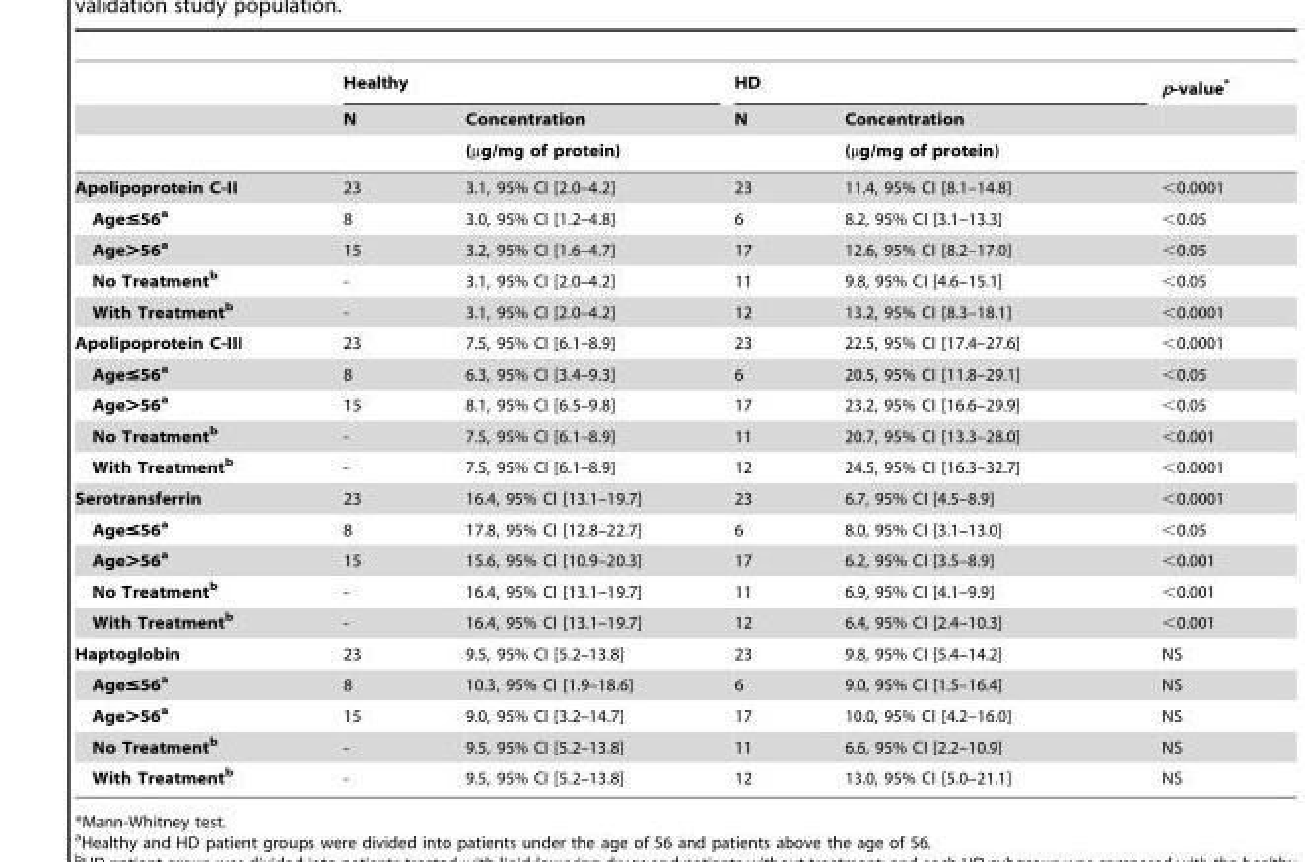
<table><thead><tr><td rowspan="3"></td><td colspan="2">Healthy</td><td colspan="2">HD</td><td rowspan="3">p-value*</td></tr><tr><td rowspan="2">N</td><td rowspan="2">Concentration (µg/mg of protein)</td><td rowspan="2">N</td><td rowspan="2">Concentration (µg/mg of protein)</td></tr><tr></tr></thead><tbody><tr><td>Apolipoprotein C-II</td><td>23</td><td>3.1, 95% CI [2.0–4.2]</td><td>23</td><td>11.4, 95% CI [8.1–14.8]</td><td>&lt;0.0001</td></tr><tr><td>Age≤56a</td><td>8</td><td>3.0, 95% CI [1.2–4.8]</td><td>6</td><td>8.2, 95% CI [3.1–13.3]</td><td>&lt;0.05</td></tr><tr><td>Age&gt;56a</td><td>15</td><td>3.2, 95% CI [1.6–4.7]</td><td>17</td><td>12.6, 95% CI [8.2–17.0]</td><td>&lt;0.05</td></tr><tr><td>No Treatmentb</td><td>-</td><td>3.1, 95% CI [2.0–4.2]</td><td>11</td><td>9.8, 95% CI [4.6–15.1]</td><td>&lt;0.05</td></tr><tr><td>With Treatmentb</td><td>-</td><td>3.1, 95% CI [2.0–4.2]</td><td>12</td><td>13.2, 95% CI [8.3–18.1]</td><td>&lt;0.0001</td></tr><tr><td>Apolipoprotein C-III</td><td>23</td><td>7.5, 95% CI [6.1–8.9]</td><td>23</td><td>22.5, 95% CI [17.4–27.6]</td><td>&lt;0.0001</td></tr><tr><td>Age≤56a</td><td>8</td><td>6.3, 95% CI [3.4–9.3]</td><td>6</td><td>20.5, 95% CI [11.8–29.1]</td><td>&lt;0.05</td></tr><tr><td>Age&gt;56a</td><td>15</td><td>8.1, 95% CI [6.5–9.8]</td><td>17</td><td>23.2, 95% CI [16.6–29.9]</td><td>&lt;0.05</td></tr><tr><td>No Treatmentb</td><td>-</td><td>7.5, 95% CI [6.1–8.9]</td><td>11</td><td>20.7, 95% CI [13.3–28.0]</td><td>&lt;0.001</td></tr><tr><td>With Treatmentb</td><td>-</td><td>7.5, 95% CI [6.1–8.9]</td><td>12</td><td>24.5, 95% CI [16.3–32.7]</td><td>&lt;0.0001</td></tr><tr><td>Serotransferrin</td><td>23</td><td>16.4, 95% CI [13.1–19.7]</td><td>23</td><td>6.7, 95% CI [4.5–8.9]</td><td>&lt;0.0001</td></tr><tr><td>Age≤56a</td><td>8</td><td>17.8, 95% CI [12.8–22.7]</td><td>6</td><td>8.0, 95% CI [3.1–13.0]</td><td>&lt;0.05</td></tr><tr><td>Age&gt;56a</td><td>15</td><td>15.6, 95% CI [10.9–20.3]</td><td>17</td><td>6.2, 95% CI [3.5–8.9]</td><td>&lt;0.001</td></tr><tr><td>No Treatmentb</td><td>-</td><td>16.4, 95% CI [13.1–19.7]</td><td>11</td><td>6.9, 95% CI [4.1–9.9]</td><td>&lt;0.001</td></tr><tr><td>With Treatmentb</td><td>-</td><td>16.4, 95% CI [13.1–19.7]</td><td>12</td><td>6.4, 95% CI [2.4–10.3]</td><td>&lt;0.001</td></tr><tr><td>Haptoglobin</td><td>23</td><td>9.5, 95% CI [5.2–13.8]</td><td>23</td><td>9.8, 95% CI [5.4–14.2]</td><td>NS</td></tr><tr><td>Age≤56a</td><td>8</td><td>10.3, 95% CI [1.9–18.6]</td><td>6</td><td>9.0, 95% CI [1.5–16.4]</td><td>NS</td></tr><tr><td>Age&gt;56a</td><td>15</td><td>9.0, 95% CI [3.2–14.7]</td><td>17</td><td>10.0, 95% CI [4.2–16.0]</td><td>NS</td></tr><tr><td>No Treatmentb</td><td>-</td><td>9.5, 95% CI [5.2–13.8]</td><td>11</td><td>6.6, 95% CI [2.2–10.9]</td><td>NS</td></tr><tr><td>With Treatmentb</td><td>-</td><td>9.5, 95% CI [5.2–13.8]</td><td>12</td><td>13.0, 95% CI [5.0–21.1]</td><td>NS</td></tr></tbody></table>